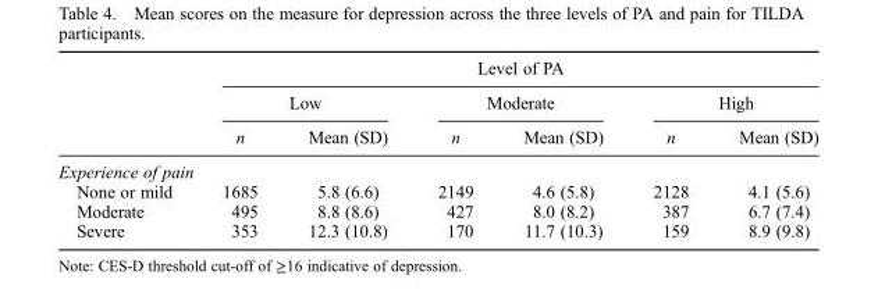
<table><thead><tr><td rowspan="3"></td><td colspan="6">Level of PA</td></tr><tr><td colspan="2">Low</td><td colspan="2">Moderate</td><td colspan="2">High</td></tr><tr><td>n</td><td>Mean (SD)</td><td>n</td><td>Mean (SD)</td><td>n</td><td>Mean (SD)</td></tr></thead><tbody><tr><td colspan="7">Experience of pain</td></tr><tr><td>None or mild</td><td>1685</td><td>5.8 (6.6)</td><td>2149</td><td>4.6 (5.8)</td><td>2128</td><td>4.1 (5.6)</td></tr><tr><td>Moderate</td><td>495</td><td>8.8 (8.6)</td><td>427</td><td>8.0 (8.2)</td><td>387</td><td>6.7 (7.4)</td></tr><tr><td>Severe</td><td>353</td><td>12.3 (10.8)</td><td>170</td><td>11.7 (10.3)</td><td>159</td><td>8.9 (9.8)</td></tr></tbody></table>